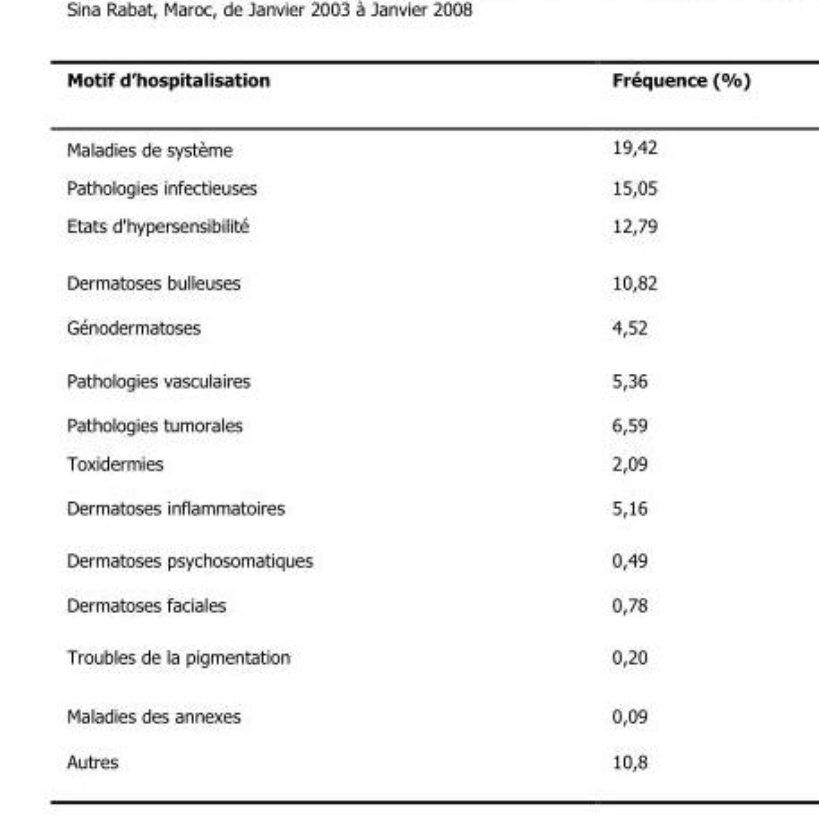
<table><thead><tr><td rowspan="15">Motif d’hospitalisation Maladies de système Pathologies infectieuses Etats d&#x27;hypersensibilité Dermatoses bulleuses Génodermatoses Pathologies vasculaires Pathologies tumorales Toxidermies Dermatoses inflammatoires Dermatoses psychosomatiques Dermatoses faciales Troubles de la pigmentation Maladies des annexes Autres</td><td rowspan="15">Fréquence (%) 19,42 15,05 12,79 10,82 4,52 5,36 6,59 2,09 5,16 0,49 0,78 0,20 0,09 10,8</td></tr><tr></tr><tr></tr><tr></tr><tr></tr><tr></tr><tr></tr><tr></tr><tr></tr><tr></tr><tr></tr><tr></tr><tr></tr><tr></tr><tr></tr></thead><tbody></tbody></table>